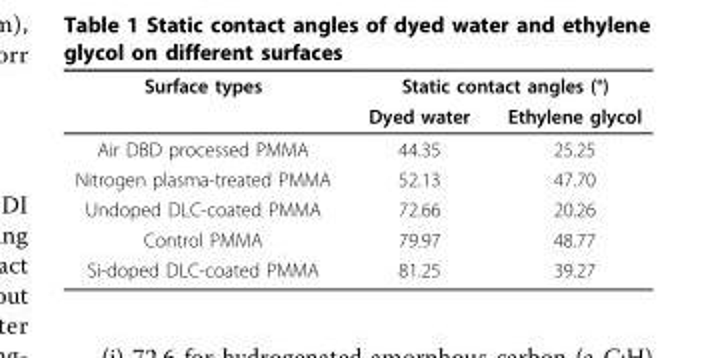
<table><thead><tr><td rowspan="2">Surface types</td><td colspan="2">Static contact angles (°)</td></tr><tr><td>Dyed water</td><td>Ethylene glycol</td></tr></thead><tbody><tr><td>Air DBD processed PMMA</td><td>44.35</td><td>25.25</td></tr><tr><td>Nitrogen plasma-treated PMMA</td><td>52.13</td><td>47.70</td></tr><tr><td>Undoped DLC-coated PMMA</td><td>72.66</td><td>20.26</td></tr><tr><td>Control PMMA</td><td>79.97</td><td>48.77</td></tr><tr><td>Si-doped DLC-coated PMMA</td><td>81.25</td><td>39.27</td></tr></tbody></table>